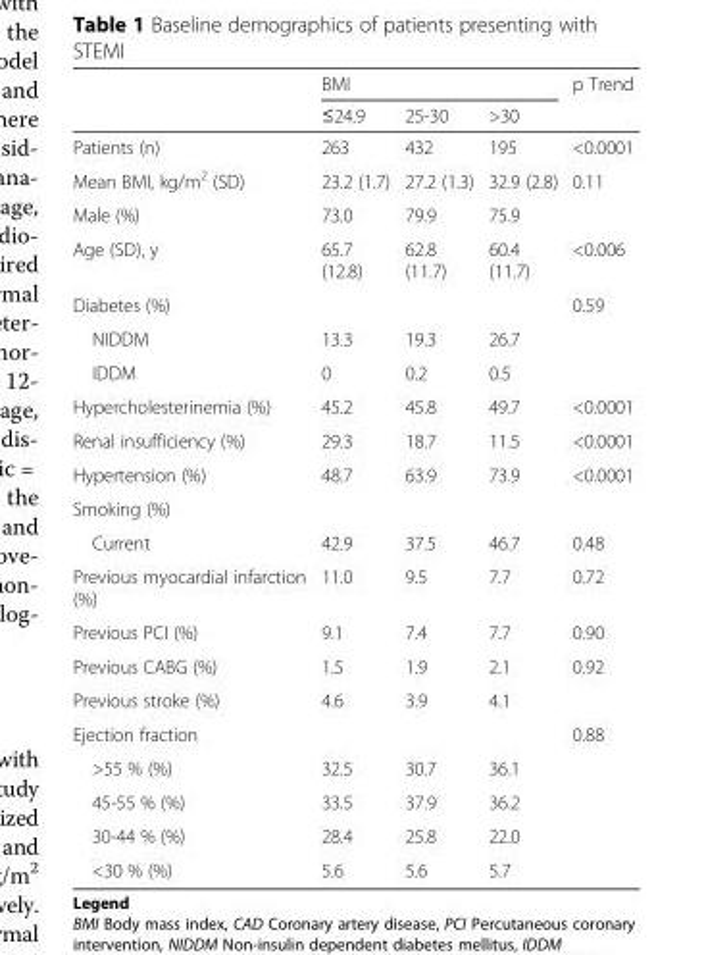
<table><thead><tr><td rowspan="2"></td><td colspan="3">BMI</td><td rowspan="2">p Trend</td></tr><tr><td>≤24.9</td><td>25-30</td><td>&gt;30</td></tr></thead><tbody><tr><td>Patients (n)</td><td>263</td><td>432</td><td>195</td><td>&lt;0.0001</td></tr><tr><td>Mean BMI, kg/m<sup>2</sup> (SD)</td><td>23.2 (1.7)</td><td>27.2 (1.3)</td><td>32.9 (2.8)</td><td>0.11</td></tr><tr><td>Male (%)</td><td>73.0</td><td>79.9</td><td>75.9</td><td></td></tr><tr><td>Age (SD), y</td><td>65.7 (12.8)</td><td>62.8 (11.7)</td><td>60.4 (11.7)</td><td>&lt;0.006</td></tr><tr><td>Diabetes (%)</td><td></td><td></td><td></td><td>0.59</td></tr><tr><td>NIDDM</td><td>13.3</td><td>19.3</td><td>26.7</td><td></td></tr><tr><td>IDDM</td><td>0</td><td>0.2</td><td>0.5</td><td></td></tr><tr><td>Hypercholesterinemia (%)</td><td>45.2</td><td>45.8</td><td>49.7</td><td>&lt;0.0001</td></tr><tr><td>Renal insufficiency (%)</td><td>29.3</td><td>18.7</td><td>11.5</td><td>&lt;0.0001</td></tr><tr><td>Hypertension (%)</td><td>48.7</td><td>63.9</td><td>73.9</td><td>&lt;0.0001</td></tr><tr><td colspan="5">Smoking (%)</td></tr><tr><td>Current</td><td>42.9</td><td>37.5</td><td>46.7</td><td>0.48</td></tr><tr><td>Previous myocardial infarction (%)</td><td>11.0</td><td>9.5</td><td>7.7</td><td>0.72</td></tr><tr><td>Previous PCI (%)</td><td>9.1</td><td>7.4</td><td>7.7</td><td>0.90</td></tr><tr><td>Previous CABG (%)</td><td>1.5</td><td>1.9</td><td>2.1</td><td>0.92</td></tr><tr><td>Previous stroke (%)</td><td>4.6</td><td>3.9</td><td>4.1</td><td></td></tr><tr><td>Ejection fraction</td><td></td><td></td><td></td><td>0.88</td></tr><tr><td>&gt;55 % (%)</td><td>32.5</td><td>30.7</td><td>36.1</td><td></td></tr><tr><td>45-55 % (%)</td><td>33.5</td><td>37.9</td><td>36.2</td><td></td></tr><tr><td>30-44 % (%)</td><td>28.4</td><td>25.8</td><td>22.0</td><td></td></tr><tr><td>&lt;30 % (%)</td><td>5.6</td><td>5.6</td><td>5.7</td><td></td></tr></tbody></table>